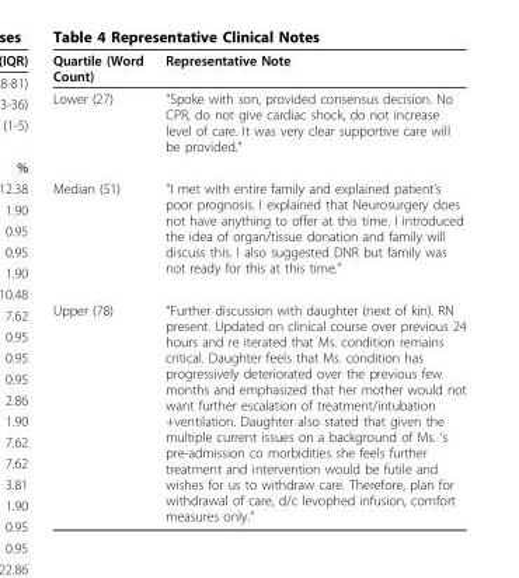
<table><thead><tr><td>Quartile (Word Count)</td><td>Representative Note</td></tr></thead><tbody><tr><td>Lower (27)</td><td>“Spoke with son, provided consensus decision. No CPR, do not give cardiac shock, do not increase level of care. It was very clear supportive care will be provided.”</td></tr><tr><td>Median (51)</td><td>“I met with entire family and explained patient’s poor prognosis. I explained that Neurosurgery does not have anything to offer at this time. I introduced the idea of organ/tissue donation and family will discuss this. I also suggested DNR but family was not ready for this at this time.”</td></tr><tr><td>Upper (78)</td><td>“Further discussion with daughter (next of kin). RN present. Updated on clinical course over previous 24 hours and re iterated that Ms. condition remains critical. Daughter feels that Ms. condition has progressively deteriorated over the previous few months and emphasized that her mother would not want further escalation of treatment/intubation +ventilation. Daughter also stated that given the multiple current issues on a background of Ms. ‘s pre-admission co morbidities she feels further treatment and intervention would be futile and wishes for us to withdraw care. Therefore, plan for withdrawal of care, d/c levophed infusion, comfort measures only.”</td></tr></tbody></table>